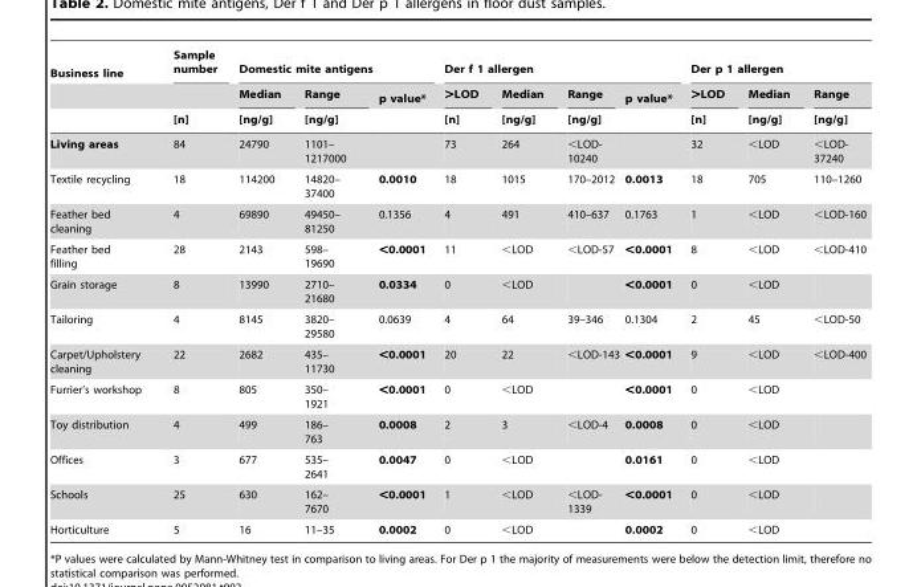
<table><thead><tr><td rowspan="3">Business line</td><td rowspan="3">Sample number [n]</td><td colspan="3">Domestic mite antigens</td><td colspan="4">Der f 1 allergen</td><td colspan="3">Der p 1 allergen</td></tr><tr><td rowspan="2">Median [ng/g]</td><td rowspan="2">Range [ng/g]</td><td rowspan="2">p value*</td><td rowspan="2">&gt;LOD [n]</td><td rowspan="2">Median [ng/g]</td><td rowspan="2">Range [ng/g]</td><td rowspan="2">p value*</td><td rowspan="2">&gt;LOD [n]</td><td rowspan="2">Median [ng/g]</td><td rowspan="2">Range [ng/g]</td></tr><tr></tr></thead><tbody><tr><td>Living areas</td><td>84</td><td>24790</td><td>1101– 1217000</td><td></td><td>73</td><td>264</td><td>&lt;LOD- 10240</td><td></td><td>32</td><td>&lt;LOD</td><td>&lt;LOD- 37240</td></tr><tr><td>Textile recycling</td><td>18</td><td>114200</td><td>14820– 37400</td><td>0.0010</td><td>18</td><td>1015</td><td>170–2012</td><td>0.0013</td><td>18</td><td>705</td><td>110–1260</td></tr><tr><td>Feather bed cleaning</td><td>4</td><td>69890</td><td>49450– 81250</td><td>0.1356</td><td>4</td><td>491</td><td>410–637</td><td>0.1763</td><td>1</td><td>&lt;LOD</td><td>&lt;LOD-160</td></tr><tr><td>Feather bed filling</td><td>28</td><td>2143</td><td>598– 19690</td><td>&lt;0.0001</td><td>11</td><td>&lt;LOD</td><td>&lt;LOD-57</td><td>&lt;0.0001</td><td>8</td><td>&lt;LOD</td><td>&lt;LOD-410</td></tr><tr><td>Grain storage</td><td>8</td><td>13990</td><td>2710– 21680</td><td>0.0334</td><td>0</td><td>&lt;LOD</td><td></td><td>&lt;0.0001</td><td>0</td><td>&lt;LOD</td><td></td></tr><tr><td>Tailoring</td><td>4</td><td>8145</td><td>3820– 29580</td><td>0.0639</td><td>4</td><td>64</td><td>39–346</td><td>0.1304</td><td>2</td><td>45</td><td>&lt;LOD-50</td></tr><tr><td>Carpet/Upholstery cleaning</td><td>22</td><td>2682</td><td>435– 11730</td><td>&lt;0.0001</td><td>20</td><td>22</td><td>&lt;LOD-143</td><td>&lt;0.0001</td><td>9</td><td>&lt;LOD</td><td>&lt;LOD-400</td></tr><tr><td>Furrier’s workshop</td><td>8</td><td>805</td><td>350– 1921</td><td>&lt;0.0001</td><td>0</td><td>&lt;LOD</td><td></td><td>&lt;0.0001</td><td>0</td><td>&lt;LOD</td><td></td></tr><tr><td>Toy distribution</td><td>4</td><td>499</td><td>186– 763</td><td>0.0008</td><td>2</td><td>3</td><td>&lt;LOD-4</td><td>0.0008</td><td>0</td><td>&lt;LOD</td><td></td></tr><tr><td>Offices</td><td>3</td><td>677</td><td>535– 2641</td><td>0.0047</td><td>0</td><td>&lt;LOD</td><td></td><td>0.0161</td><td>0</td><td>&lt;LOD</td><td></td></tr><tr><td>Schools</td><td>25</td><td>630</td><td>162– 7670</td><td>&lt;0.0001</td><td>1</td><td>&lt;LOD</td><td>&lt;LOD- 1339</td><td>&lt;0.0001</td><td>0</td><td>&lt;LOD</td><td></td></tr><tr><td>Horticulture</td><td>5</td><td>16</td><td>11–35</td><td>0.0002</td><td>0</td><td>&lt;LOD</td><td></td><td>0.0002</td><td>0</td><td>&lt;LOD</td><td></td></tr></tbody></table>